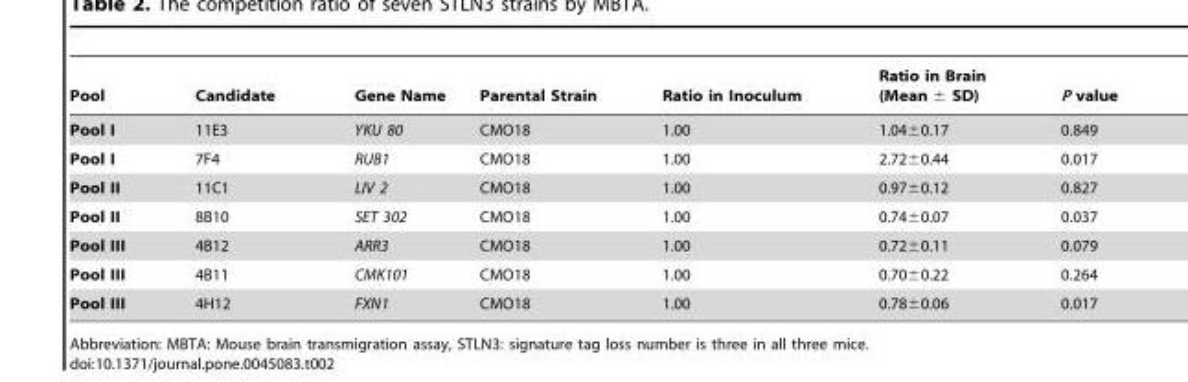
<table><thead><tr><td>Pool</td><td>Candidate</td><td>Gene Name</td><td>Parental Strain</td><td>Ratio in Inoculum</td><td>Ratio in Brain (Mean ± SD)</td><td>P value</td></tr></thead><tbody><tr><td>Pool I</td><td>11E3</td><td>YKU 80</td><td>CMO18</td><td>1.00</td><td>1.04±0.17</td><td>0.849</td></tr><tr><td>Pool I</td><td>7F4</td><td>RUB1</td><td>CMO18</td><td>1.00</td><td>2.72±0.44</td><td>0.017</td></tr><tr><td>Pool II</td><td>11C1</td><td>LIV 2</td><td>CMO18</td><td>1.00</td><td>0.97±0.12</td><td>0.827</td></tr><tr><td>Pool II</td><td>8B10</td><td>SET 302</td><td>CMO18</td><td>1.00</td><td>0.74±0.07</td><td>0.037</td></tr><tr><td>Pool III</td><td>4B12</td><td>ARR3</td><td>CMO18</td><td>1.00</td><td>0.72±0.11</td><td>0.079</td></tr><tr><td>Pool III</td><td>4B11</td><td>CMK101</td><td>CMO18</td><td>1.00</td><td>0.70±0.22</td><td>0.264</td></tr><tr><td>Pool III</td><td>4H12</td><td>FXN1</td><td>CMO18</td><td>1.00</td><td>0.78±0.06</td><td>0.017</td></tr></tbody></table>